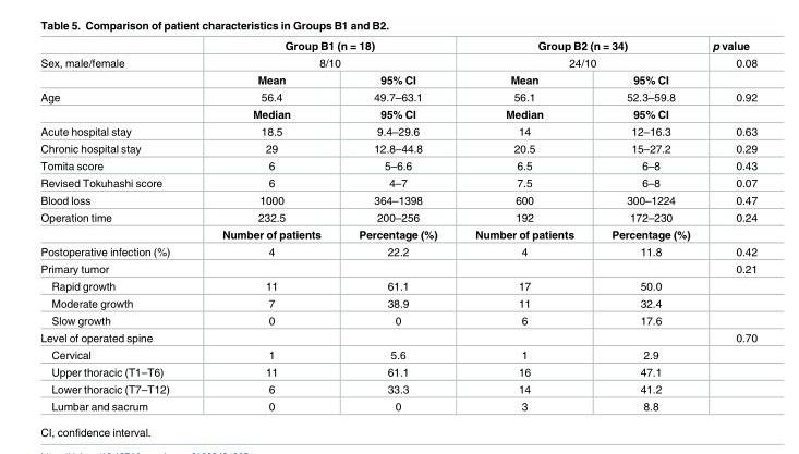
<table><thead><tr><td rowspan="3">Sex, male/female</td><td rowspan="2" colspan="2">Group B1 (n = 18) 8/10</td><td rowspan="2" colspan="2">Group B2 (n = 34) 24/10</td><td rowspan="3">p value 0.08</td></tr><tr></tr><tr><td>Mean</td><td>95% CI</td><td>Mean</td><td>95% CI</td></tr></thead><tbody><tr><td rowspan="2">Age</td><td>56.4</td><td>49.7–63.1</td><td>56.1</td><td>52.3–59.8</td><td>0.92</td></tr><tr><td>Median</td><td>95% CI</td><td>Median</td><td>95% CI</td><td></td></tr><tr><td>Acute hospital stay</td><td>18.5</td><td>9.4–29.6</td><td>14</td><td>12–16.3</td><td>0.63</td></tr><tr><td>Chronic hospital stay</td><td>29</td><td>12.8–44.8</td><td>20.5</td><td>15–27.2</td><td>0.29</td></tr><tr><td>Tomita score</td><td>6</td><td>5–6.6</td><td>6.5</td><td>6–8</td><td>0.43</td></tr><tr><td>Revised Tokuhashi score</td><td>6</td><td>4–7</td><td>7.5</td><td>6–8</td><td>0.07</td></tr><tr><td>Blood loss</td><td>1000</td><td>364–1398</td><td>600</td><td>300–1224</td><td>0.47</td></tr><tr><td rowspan="2">Operation time</td><td>232.5</td><td>200–256</td><td>192</td><td>172–230</td><td>0.24</td></tr><tr><td>Number of patients</td><td>Percentage (%)</td><td>Number of patients</td><td>Percentage (%)</td><td></td></tr><tr><td>Postoperative infection (%)</td><td>4</td><td>22.2</td><td>4</td><td>11.8</td><td>0.42</td></tr><tr><td>Primary tumor</td><td></td><td></td><td></td><td></td><td>0.21</td></tr><tr><td>Rapid growth</td><td>11</td><td>61.1</td><td>17</td><td>50.0</td><td></td></tr><tr><td>Moderate growth</td><td>7</td><td>38.9</td><td>11</td><td>32.4</td><td></td></tr><tr><td>Slow growth</td><td>0</td><td>0</td><td>6</td><td>17.6</td><td></td></tr><tr><td>Level of operated spine</td><td></td><td></td><td></td><td></td><td>0.70</td></tr><tr><td>Cervical</td><td>1</td><td>5.6</td><td>1</td><td>2.9</td><td></td></tr><tr><td>Upper thoracic (T1–T6)</td><td>11</td><td>61.1</td><td>16</td><td>47.1</td><td></td></tr><tr><td>Lower thoracic (T7–T12)</td><td>6</td><td>33.3</td><td>14</td><td>41.2</td><td></td></tr><tr><td>Lumbar and sacrum</td><td>0</td><td>0</td><td>3</td><td>8.8</td><td></td></tr></tbody></table>